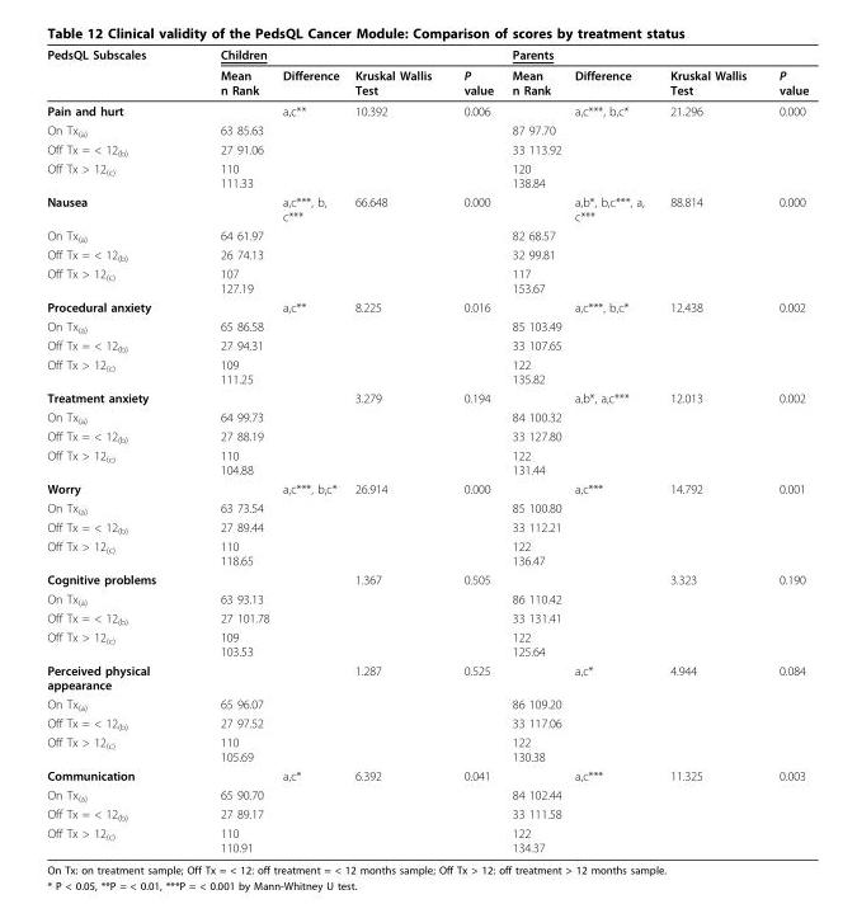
<table><thead><tr><td rowspan="2">PedsQL Subscales</td><td colspan="4">Children</td><td colspan="4">Parents</td></tr><tr><td>Mean n Rank</td><td>Difference</td><td>Kruskal Wallis Test</td><td>P value</td><td>Mean n Rank</td><td>Difference</td><td>Kruskal Wallis Test</td><td>P value</td></tr></thead><tbody><tr><td>Pain and hurt</td><td></td><td>a,c**</td><td>10.392</td><td>0.006</td><td></td><td>a,c***, b,c*</td><td>21.296</td><td>0.000</td></tr><tr><td>On Tx<sub>(a)</sub></td><td>63 85.63</td><td></td><td></td><td></td><td>87 97.70</td><td></td><td></td><td></td></tr><tr><td>Off Tx = &lt; 12<sub>(b)</sub></td><td>27 91.06</td><td></td><td></td><td></td><td>33 113.92</td><td></td><td></td><td></td></tr><tr><td>Off Tx &gt; 12<sub>(c)</sub></td><td>110 111.33</td><td></td><td></td><td></td><td>120 138.84</td><td></td><td></td><td></td></tr><tr><td>Nausea</td><td></td><td>a,c***, b, c***</td><td>66.648</td><td>0.000</td><td></td><td>a,b*, b,c***, a, c***</td><td>88.814</td><td>0.000</td></tr><tr><td>On Tx<sub>(a)</sub></td><td>64 61.97</td><td></td><td></td><td></td><td>82 68.57</td><td></td><td></td><td></td></tr><tr><td>Off Tx = &lt; 12<sub>(b)</sub></td><td>26 74.13</td><td></td><td></td><td></td><td>32 99.81</td><td></td><td></td><td></td></tr><tr><td>Off Tx &gt; 12<sub>(c)</sub></td><td>107 127.19</td><td></td><td></td><td></td><td>117 153.67</td><td></td><td></td><td></td></tr><tr><td>Procedural anxiety</td><td></td><td>a,c**</td><td>8.225</td><td>0.016</td><td></td><td>a,c***, b,c*</td><td>12.438</td><td>0.002</td></tr><tr><td>On Tx<sub>(a)</sub></td><td>65 86.58</td><td></td><td></td><td></td><td>85 103.49</td><td></td><td></td><td></td></tr><tr><td>Off Tx = &lt; 12<sub>(b)</sub></td><td>27 94.31</td><td></td><td></td><td></td><td>33 107.65</td><td></td><td></td><td></td></tr><tr><td>Off Tx &gt; 12<sub>(c)</sub></td><td>109 111.25</td><td></td><td></td><td></td><td>122 135.82</td><td></td><td></td><td></td></tr><tr><td>Treatment anxiety</td><td></td><td></td><td>3.279</td><td>0.194</td><td></td><td>a,b*, a,c***</td><td>12.013</td><td>0.002</td></tr><tr><td>On Tx<sub>(a)</sub></td><td>64 99.73</td><td></td><td></td><td></td><td>84 100.32</td><td></td><td></td><td></td></tr><tr><td>Off Tx = &lt; 12<sub>(b)</sub></td><td>27 88.19</td><td></td><td></td><td></td><td>33 127.80</td><td></td><td></td><td></td></tr><tr><td>Off Tx &gt; 12<sub>(c)</sub></td><td>110 104.88</td><td></td><td></td><td></td><td>122 131.44</td><td></td><td></td><td></td></tr><tr><td>Worry</td><td></td><td>a,c***, b,c*</td><td>26.914</td><td>0.000</td><td></td><td>a,c***</td><td>14.792</td><td>0.001</td></tr><tr><td>On Tx<sub>(a)</sub></td><td>63 73.54</td><td></td><td></td><td></td><td>85 100.80</td><td></td><td></td><td></td></tr><tr><td>Off Tx = &lt; 12<sub>(b)</sub></td><td>27 89.44</td><td></td><td></td><td></td><td>33 112.21</td><td></td><td></td><td></td></tr><tr><td>Off Tx &gt; 12<sub>(c)</sub></td><td>110 118.65</td><td></td><td></td><td></td><td>122 136.47</td><td></td><td></td><td></td></tr><tr><td>Cognitive problems</td><td></td><td></td><td>1.367</td><td>0.505</td><td></td><td></td><td>3.323</td><td>0.190</td></tr><tr><td>On Tx<sub>(a)</sub></td><td>63 93.13</td><td></td><td></td><td></td><td>86 110.42</td><td></td><td></td><td></td></tr><tr><td>Off Tx = &lt; 12<sub>(b)</sub></td><td>27 101.78</td><td></td><td></td><td></td><td>33 131.41</td><td></td><td></td><td></td></tr><tr><td>Off Tx &gt; 12<sub>(c)</sub></td><td>109 103.53</td><td></td><td></td><td></td><td>122 125.64</td><td></td><td></td><td></td></tr><tr><td>Perceived physical appearance</td><td></td><td></td><td>1.287</td><td>0.525</td><td></td><td>a,c*</td><td>4.944</td><td>0.084</td></tr><tr><td>On Tx<sub>(a)</sub></td><td>65 96.07</td><td></td><td></td><td></td><td>86 109.20</td><td></td><td></td><td></td></tr><tr><td>Off Tx = &lt; 12<sub>(b)</sub></td><td>27 97.52</td><td></td><td></td><td></td><td>33 117.06</td><td></td><td></td><td></td></tr><tr><td>Off Tx &gt; 12<sub>(c)</sub></td><td>110 105.69</td><td></td><td></td><td></td><td>122 130.38</td><td></td><td></td><td></td></tr><tr><td>Communication</td><td></td><td>a,c*</td><td>6.392</td><td>0.041</td><td></td><td>a,c***</td><td>11.325</td><td>0.003</td></tr><tr><td>On Tx<sub>(a)</sub></td><td>65 90.70</td><td></td><td></td><td></td><td>84 102.44</td><td></td><td></td><td></td></tr><tr><td>Off Tx = &lt; 12<sub>(b)</sub></td><td>27 89.17</td><td></td><td></td><td></td><td>33 111.58</td><td></td><td></td><td></td></tr><tr><td>Off Tx &gt; 12<sub>(c)</sub></td><td>110 110.91</td><td></td><td></td><td></td><td>122 134.37</td><td></td><td></td><td></td></tr></tbody></table>